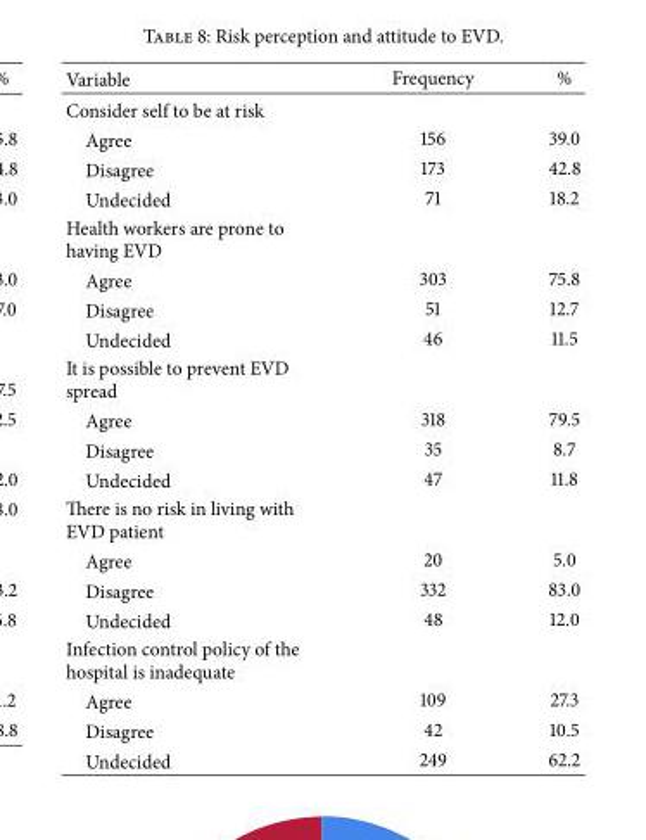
<table><thead><tr><td>Variable</td><td>Frequency</td><td>%</td></tr></thead><tbody><tr><td colspan="3">Consider self to be at risk</td></tr><tr><td>Agree</td><td>156</td><td>39.0</td></tr><tr><td>Disagree</td><td>173</td><td>42.8</td></tr><tr><td>Undecided</td><td>71</td><td>18.2</td></tr><tr><td colspan="3">Health workers are prone to having EVD</td></tr><tr><td>Agree</td><td>303</td><td>75.8</td></tr><tr><td>Disagree</td><td>51</td><td>12.7</td></tr><tr><td>Undecided</td><td>46</td><td>11.5</td></tr><tr><td colspan="3">It is possible to prevent EVD spread</td></tr><tr><td>Agree</td><td>318</td><td>79.5</td></tr><tr><td>Disagree</td><td>35</td><td>8.7</td></tr><tr><td>Undecided</td><td>47</td><td>11.8</td></tr><tr><td colspan="3">There is no risk in living with EVD patient</td></tr><tr><td>Agree</td><td>20</td><td>5.0</td></tr><tr><td>Disagree</td><td>332</td><td>83.0</td></tr><tr><td>Undecided</td><td>48</td><td>12.0</td></tr><tr><td colspan="3">Infection control policy of the hospital is inadequate</td></tr><tr><td>Agree</td><td>109</td><td>27.3</td></tr><tr><td>Disagree</td><td>42</td><td>10.5</td></tr><tr><td>Undecided</td><td>249</td><td>62.2</td></tr></tbody></table>